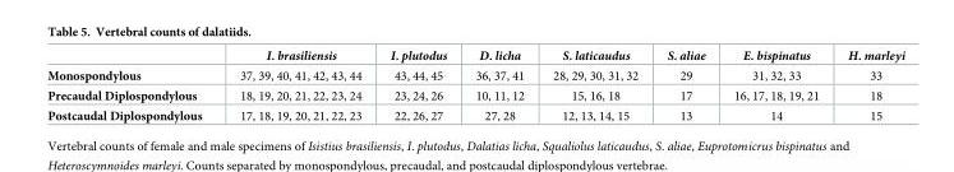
<table><thead><tr><td></td><td>I. brasiliensis</td><td>I. plutodus</td><td>D. licha</td><td>S. laticaudus</td><td>S. aliae</td><td>E. bispinatus</td><td>H. marleyi</td></tr></thead><tbody><tr><td>Monospondylous</td><td>37, 39, 40, 41, 42, 43, 44</td><td>43, 44, 45</td><td>36, 37, 41</td><td>28, 29, 30, 31, 32</td><td>29</td><td>31, 32, 33</td><td>33</td></tr><tr><td>Precaudal Diplospondylous</td><td>18, 19, 20, 21, 22, 23, 24</td><td>23, 24, 26</td><td>10, 11, 12</td><td>15, 16, 18</td><td>17</td><td>16, 17, 18, 19, 21</td><td>18</td></tr><tr><td>Postcaudal Diplospondylous</td><td>17, 18, 19, 20, 21, 22, 23</td><td>22, 26, 27</td><td>27, 28</td><td>12, 13, 14, 15</td><td>13</td><td>14</td><td>15</td></tr></tbody></table>